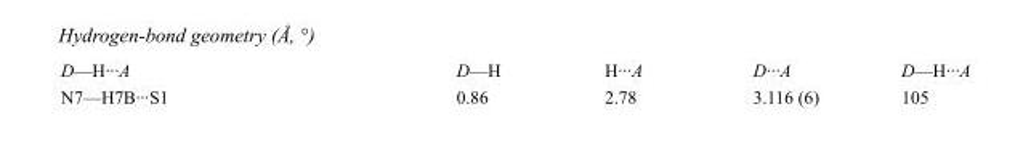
<table><tbody><tr><td>D—H···A</td><td>D—H</td><td>H···A</td><td>D···A</td><td>D—H···A</td></tr><tr><td>N7—H7B···S1</td><td>0.86</td><td>2.78</td><td>3.116 (6)</td><td>105</td></tr></tbody></table>